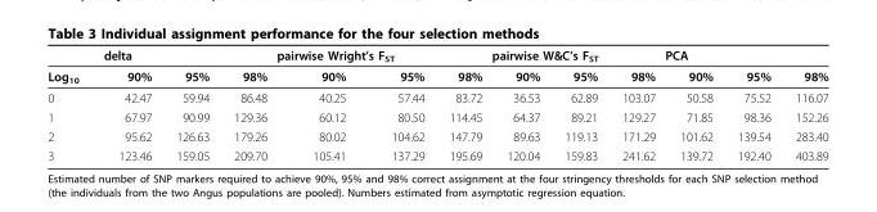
<table><thead><tr><td rowspan="2">Log10</td><td rowspan="2">delta 90%</td><td rowspan="2">95%</td><td rowspan="2">98%</td><td colspan="2">pairwise Wright’s FST</td><td rowspan="2">98%</td><td colspan="3">pairwise W&amp;C’s FST</td><td rowspan="2">PCA 90%</td><td rowspan="2">95%</td><td rowspan="2">98%</td></tr><tr><td>90%</td><td>95%</td><td>90%</td><td>95%</td><td>98%</td></tr></thead><tbody><tr><td>0</td><td>42.47</td><td>59.94</td><td>86.48</td><td>40.25</td><td>57.44</td><td>83.72</td><td>36.53</td><td>62.89</td><td>103.07</td><td>50.58</td><td>75.52</td><td>116.07</td></tr><tr><td>1</td><td>67.97</td><td>90.99</td><td>129.36</td><td>60.12</td><td>80.50</td><td>114.45</td><td>64.37</td><td>89.21</td><td>129.27</td><td>71.85</td><td>98.36</td><td>152.26</td></tr><tr><td>2</td><td>95.62</td><td>126.63</td><td>179.26</td><td>80.02</td><td>104.62</td><td>147.79</td><td>89.63</td><td>119.13</td><td>171.29</td><td>101.62</td><td>139.54</td><td>283.40</td></tr><tr><td>3</td><td>123.46</td><td>159.05</td><td>209.70</td><td>105.41</td><td>137.29</td><td>195.69</td><td>120.04</td><td>159.83</td><td>241.62</td><td>139.72</td><td>192.40</td><td>403.89</td></tr></tbody></table>